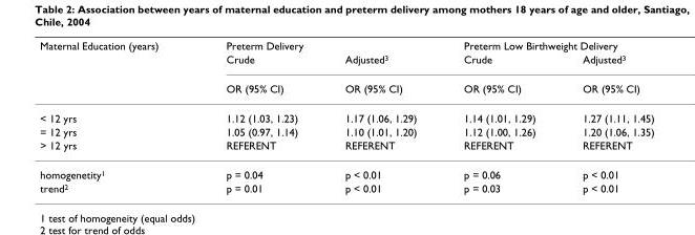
<table><thead><tr><td rowspan="3">Maternal Education (years)</td><td colspan="2">Preterm Delivery</td><td colspan="2">Preterm Low Birthweight Delivery</td></tr><tr><td rowspan="2">Crude OR (95% CI)</td><td rowspan="2">Adjusted<sup>3</sup> OR (95% CI)</td><td rowspan="2">Crude OR (95% CI)</td><td rowspan="2">Adjusted<sup>3</sup> OR (95% CI)</td></tr><tr></tr></thead><tbody><tr><td>&lt; 12 yrs</td><td>1.12 (1.03, 1.23)</td><td>1.17 (1.06, 1.29)</td><td>1.14 (1.01, 1.29)</td><td>1.27 (1.11, 1.45)</td></tr><tr><td>= 12 yrs</td><td>1.05 (0.97, 1.14)</td><td>1.10 (1.01, 1.20)</td><td>1.12 (1.00, 1.26)</td><td>1.20 (1.06, 1.35)</td></tr><tr><td>&gt; 12 yrs</td><td>REFERENT</td><td>REFERENT</td><td>REFERENT</td><td>REFERENT</td></tr><tr><td>homogenetity<sup>1</sup></td><td>p = 0.04</td><td>p &lt; 0.01</td><td>p = 0.06</td><td>p &lt; 0.01</td></tr><tr><td>trend<sup>2</sup></td><td>p = 0.01</td><td>p &lt; 0.01</td><td>p = 0.03</td><td>p &lt; 0.01</td></tr></tbody></table>